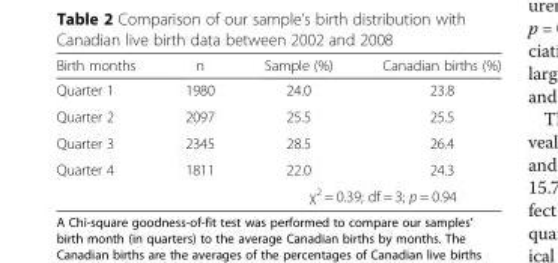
<table><thead><tr><td>Birth months</td><td>n</td><td>Sample (%)</td><td>Canadian births (%)</td></tr></thead><tbody><tr><td>Quarter 1</td><td>1980</td><td>24.0</td><td>23.8</td></tr><tr><td>Quarter 2</td><td>2097</td><td>25.5</td><td>25.5</td></tr><tr><td>Quarter 3</td><td>2345</td><td>28.5</td><td>26.4</td></tr><tr><td rowspan="2">Quarter 4</td><td>1811</td><td>22.0</td><td>24.3</td></tr><tr><td></td><td colspan="2">χ<sup>2</sup> = 0.39; df = 3; p = 0.94</td></tr></tbody></table>